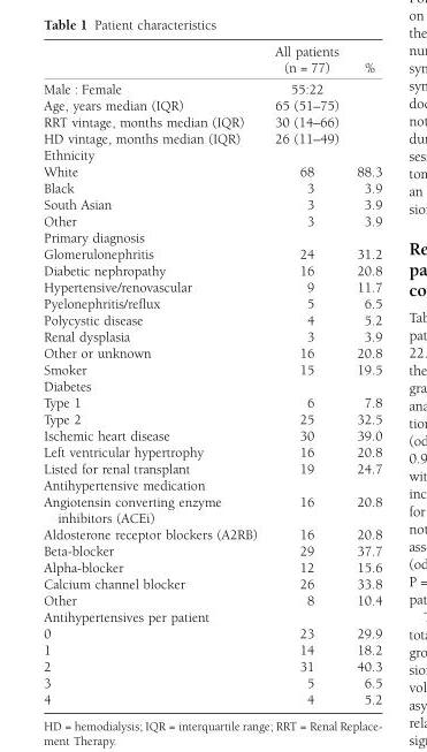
<table><thead><tr><td></td><td>All patients (n = 77)</td><td>%</td></tr></thead><tbody><tr><td>Male : Female</td><td>55:22</td><td></td></tr><tr><td>Age, years median (IQR)</td><td>65 (51–75)</td><td></td></tr><tr><td>RRT vintage, months median (IQR)</td><td>30 (14–66)</td><td></td></tr><tr><td>HD vintage, months median (IQR)</td><td>26 (11–49)</td><td></td></tr><tr><td colspan="3">Ethnicity</td></tr><tr><td>White</td><td>68</td><td>88.3</td></tr><tr><td>Black</td><td>3</td><td>3.9</td></tr><tr><td>South Asian</td><td>3</td><td>3.9</td></tr><tr><td>Other</td><td>3</td><td>3.9</td></tr><tr><td colspan="3">Primary diagnosis</td></tr><tr><td>Glomerulonephritis</td><td>24</td><td>31.2</td></tr><tr><td>Diabetic nephropathy</td><td>16</td><td>20.8</td></tr><tr><td>Hypertensive/renovascular</td><td>9</td><td>11.7</td></tr><tr><td>Pyelonephritis/reflux</td><td>5</td><td>6.5</td></tr><tr><td>Polycystic disease</td><td>4</td><td>5.2</td></tr><tr><td>Renal dysplasia</td><td>3</td><td>3.9</td></tr><tr><td>Other or unknown</td><td>16</td><td>20.8</td></tr><tr><td>Smoker</td><td>15</td><td>19.5</td></tr><tr><td colspan="3">Diabetes</td></tr><tr><td>Type 1</td><td>6</td><td>7.8</td></tr><tr><td>Type 2</td><td>25</td><td>32.5</td></tr><tr><td>Ischemic heart disease</td><td>30</td><td>39.0</td></tr><tr><td>Left ventricular hypertrophy</td><td>16</td><td>20.8</td></tr><tr><td>Listed for renal transplant</td><td>19</td><td>24.7</td></tr><tr><td colspan="3">Antihypertensive medication</td></tr><tr><td>Angiotensin converting enzyme inhibitors (ACEi)</td><td>16</td><td>20.8</td></tr><tr><td>Aldosterone receptor blockers (A2RB)</td><td>16</td><td>20.8</td></tr><tr><td>Beta-blocker</td><td>29</td><td>37.7</td></tr><tr><td>Alpha-blocker</td><td>12</td><td>15.6</td></tr><tr><td>Calcium channel blocker</td><td>26</td><td>33.8</td></tr><tr><td>Other</td><td>8</td><td>10.4</td></tr><tr><td colspan="3">Antihypertensives per patient</td></tr><tr><td>0</td><td>23</td><td>29.9</td></tr><tr><td>1</td><td>14</td><td>18.2</td></tr><tr><td>2</td><td>31</td><td>40.3</td></tr><tr><td>3</td><td>5</td><td>6.5</td></tr><tr><td>4</td><td>4</td><td>5.2</td></tr></tbody></table>